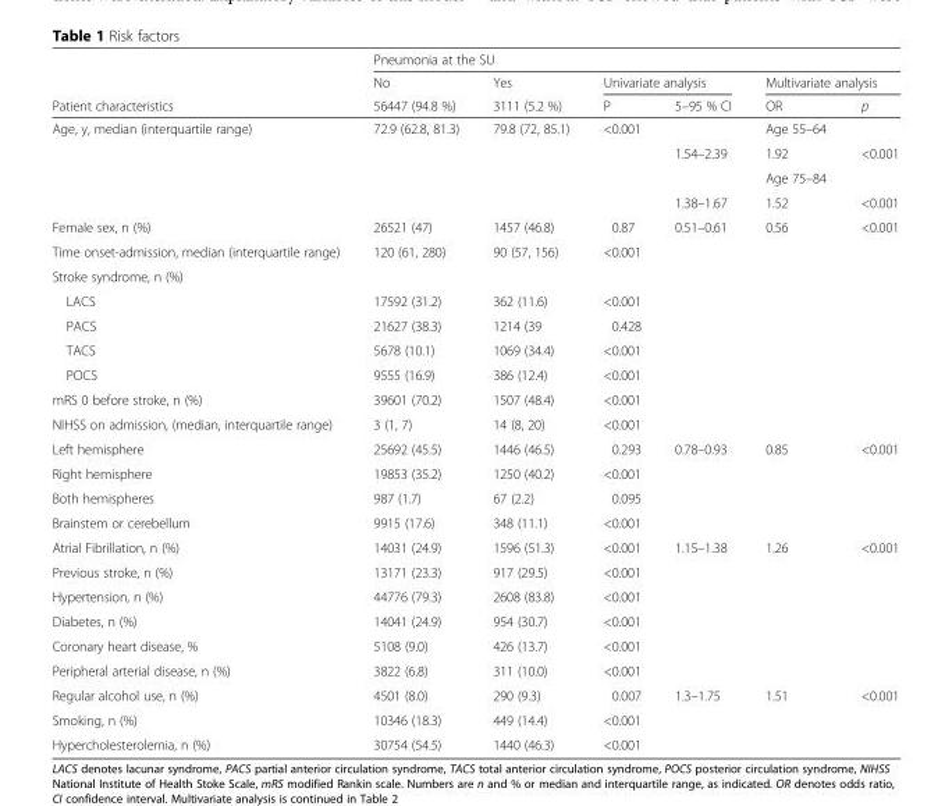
<table><thead><tr><td rowspan="3">Patient characteristics</td><td colspan="6">Pneumonia at the SU</td></tr><tr><td rowspan="2">No 56447 (94.8 %)</td><td rowspan="2">Yes 3111 (5.2 %)</td><td colspan="2">Univariate analysis</td><td colspan="2">Multivariate analysis</td></tr><tr><td>P</td><td>5–95 % CI</td><td>OR</td><td>p</td></tr></thead><tbody><tr><td rowspan="4">Age, y, median (interquartile range)</td><td>72.9 (62.8, 81.3)</td><td>79.8 (72, 85.1)</td><td>&lt;0.001</td><td></td><td>Age 55–64</td><td></td></tr><tr><td></td><td></td><td></td><td>1.54–2.39</td><td>1.92</td><td>&lt;0.001</td></tr><tr><td></td><td></td><td></td><td></td><td>Age 75–84</td><td></td></tr><tr><td></td><td></td><td></td><td>1.38–1.67</td><td>1.52</td><td>&lt;0.001</td></tr><tr><td>Female sex, n (%)</td><td>26521 (47)</td><td>1457 (46.8)</td><td>0.87</td><td>0.51–0.61</td><td>0.56</td><td>&lt;0.001</td></tr><tr><td>Time onset-admission, median (interquartile range)</td><td>120 (61, 280)</td><td>90 (57, 156)</td><td>&lt;0.001</td><td></td><td></td><td></td></tr><tr><td colspan="7">Stroke syndrome, n (%)</td></tr><tr><td>LACS</td><td>17592 (31.2)</td><td>362 (11.6)</td><td>&lt;0.001</td><td></td><td></td><td></td></tr><tr><td>PACS</td><td>21627 (38.3)</td><td>1214 (39</td><td>0.428</td><td></td><td></td><td></td></tr><tr><td>TACS</td><td>5678 (10.1)</td><td>1069 (34.4)</td><td>&lt;0.001</td><td></td><td></td><td></td></tr><tr><td>POCS</td><td>9555 (16.9)</td><td>386 (12.4)</td><td>&lt;0.001</td><td></td><td></td><td></td></tr><tr><td>mRS 0 before stroke, n (%)</td><td>39601 (70.2)</td><td>1507 (48.4)</td><td>&lt;0.001</td><td></td><td></td><td></td></tr><tr><td>NIHSS on admission, (median, interquartile range)</td><td>3 (1, 7)</td><td>14 (8, 20)</td><td>&lt;0.001</td><td></td><td></td><td></td></tr><tr><td>Left hemisphere</td><td>25692 (45.5)</td><td>1446 (46.5)</td><td>0.293</td><td>0.78–0.93</td><td>0.85</td><td>&lt;0.001</td></tr><tr><td>Right hemisphere</td><td>19853 (35.2)</td><td>1250 (40.2)</td><td>&lt;0.001</td><td></td><td></td><td></td></tr><tr><td>Both hemispheres</td><td>987 (1.7)</td><td>67 (2.2)</td><td>0.095</td><td></td><td></td><td></td></tr><tr><td>Brainstem or cerebellum</td><td>9915 (17.6)</td><td>348 (11.1)</td><td>&lt;0.001</td><td></td><td></td><td></td></tr><tr><td>Atrial Fibrillation, n (%)</td><td>14031 (24.9)</td><td>1596 (51.3)</td><td>&lt;0.001</td><td>1.15–1.38</td><td>1.26</td><td>&lt;0.001</td></tr><tr><td>Previous stroke, n (%)</td><td>13171 (23.3)</td><td>917 (29.5)</td><td>&lt;0.001</td><td></td><td></td><td></td></tr><tr><td>Hypertension, n (%)</td><td>44776 (79.3)</td><td>2608 (83.8)</td><td>&lt;0.001</td><td></td><td></td><td></td></tr><tr><td>Diabetes, n (%)</td><td>14041 (24.9)</td><td>954 (30.7)</td><td>&lt;0.001</td><td></td><td></td><td></td></tr><tr><td>Coronary heart disease, %</td><td>5108 (9.0)</td><td>426 (13.7)</td><td>&lt;0.001</td><td></td><td></td><td></td></tr><tr><td>Peripheral arterial disease, n (%)</td><td>3822 (6.8)</td><td>311 (10.0)</td><td>&lt;0.001</td><td></td><td></td><td></td></tr><tr><td>Regular alcohol use, n (%)</td><td>4501 (8.0)</td><td>290 (9.3)</td><td>0.007</td><td>1.3–1.75</td><td>1.51</td><td>&lt;0.001</td></tr><tr><td>Smoking, n (%)</td><td>10346 (18.3)</td><td>449 (14.4)</td><td>&lt;0.001</td><td></td><td></td><td></td></tr><tr><td>Hypercholesterolemia, n (%)</td><td>30754 (54.5)</td><td>1440 (46.3)</td><td>&lt;0.001</td><td></td><td></td><td></td></tr></tbody></table>